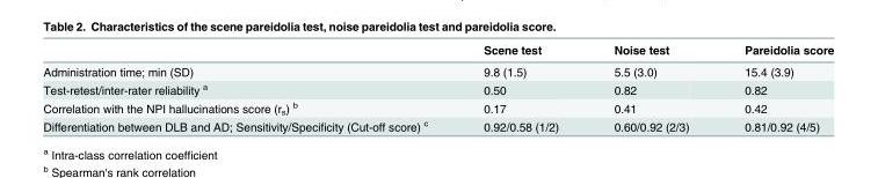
<table><thead><tr><td></td><td>Scene test</td><td>Noise test</td><td>Pareidolia score</td></tr></thead><tbody><tr><td>Administration time; min (SD)</td><td>9.8 (1.5)</td><td>5.5 (3.0)</td><td>15.4 (3.9)</td></tr><tr><td>Test-retest/inter-rater reliability <sup>a</sup></td><td>0.50</td><td>0.82</td><td>0.82</td></tr><tr><td>Correlation with the NPI hallucinations score (r<sub>s</sub>) <sup>b</sup></td><td>0.17</td><td>0.41</td><td>0.42</td></tr><tr><td>Differentiation between DLB and AD; Sensitivity/Specificity (Cut-off score) <sup>c</sup></td><td>0.92/0.58 (1/2)</td><td>0.60/0.92 (2/3)</td><td>0.81/0.92 (4/5)</td></tr></tbody></table>